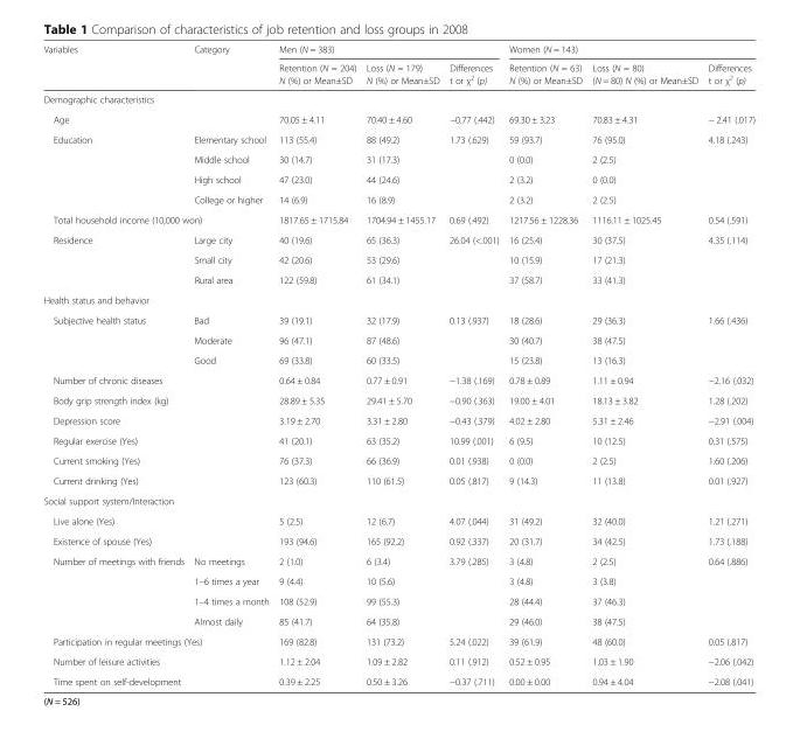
<table><thead><tr><td rowspan="2">Variables</td><td rowspan="2">Category</td><td colspan="3">Men (N = 383)</td><td colspan="3">Women (N = 143)</td></tr><tr><td>Retention (N = 204) N (%) or Mean±SD</td><td>Loss (N = 179) N (%) or Mean±SD</td><td>Differences t or χ<sup>2</sup> (p)</td><td>Retention (N = 63) N (%) or Mean±SD</td><td>Loss (N = 80) (N = 80) N (%) or Mean±SD</td><td>Differences t or χ<sup>2</sup> (p)</td></tr></thead><tbody><tr><td colspan="8">Demographic characteristics</td></tr><tr><td>Age</td><td></td><td>70.05 ± 4.11</td><td>70.40 ± 4.60</td><td>−0.77 (.442)</td><td>69.30 ± 3.23</td><td>70.83 ± 4.31</td><td>− 2.41 (.017)</td></tr><tr><td rowspan="4">Education</td><td>Elementary school</td><td>113 (55.4)</td><td>88 (49.2)</td><td>1.73 (.629)</td><td>59 (93.7)</td><td>76 (95.0)</td><td>4.18 (.243)</td></tr><tr><td>Middle school</td><td>30 (14.7)</td><td>31 (17.3)</td><td></td><td>0 (0.0)</td><td>2 (2.5)</td><td></td></tr><tr><td>High school</td><td>47 (23.0)</td><td>44 (24.6)</td><td></td><td>2 (3.2)</td><td>0 (0.0)</td><td></td></tr><tr><td>College or higher</td><td>14 (6.9)</td><td>16 (8.9)</td><td></td><td>2 (3.2)</td><td>2 (2.5)</td><td></td></tr><tr><td colspan="2">Total household income (10,000 won)</td><td>1817.65 ± 1715.84</td><td>1704.94 ± 1455.17</td><td>0.69 (.492)</td><td>1217.56 ± 1228.36</td><td>1116.11 ± 1025.45</td><td>0.54 (.591)</td></tr><tr><td rowspan="3">Residence</td><td>Large city</td><td>40 (19.6)</td><td>65 (36.3)</td><td>26.04 (&lt;.001)</td><td>16 (25.4)</td><td>30 (37.5)</td><td>4.35 (.114)</td></tr><tr><td>Small city</td><td>42 (20.6)</td><td>53 (29.6)</td><td></td><td>10 (15.9)</td><td>17 (21.3)</td><td></td></tr><tr><td>Rural area</td><td>122 (59.8)</td><td>61 (34.1)</td><td></td><td>37 (58.7)</td><td>33 (41.3)</td><td></td></tr><tr><td colspan="8">Health status and behavior</td></tr><tr><td rowspan="3">Subjective health status</td><td>Bad</td><td>39 (19.1)</td><td>32 (17.9)</td><td>0.13 (.937)</td><td>18 (28.6)</td><td>29 (36.3)</td><td>1.66 (.436)</td></tr><tr><td>Moderate</td><td>96 (47.1)</td><td>87 (48.6)</td><td></td><td>30 (40.7)</td><td>38 (47.5)</td><td></td></tr><tr><td>Good</td><td>69 (33.8)</td><td>60 (33.5)</td><td></td><td>15 (23.8)</td><td>13 (16.3)</td><td></td></tr><tr><td colspan="2">Number of chronic diseases</td><td>0.64 ± 0.84</td><td>0.77 ± 0.91</td><td>−1.38 (.169)</td><td>0.78 ± 0.89</td><td>1.11 ± 0.94</td><td>−2.16 (.032)</td></tr><tr><td colspan="2">Body grip strength index (kg)</td><td>28.89 ± 5.35</td><td>29.41 ± 5.70</td><td>−0.90 (.363)</td><td>19.00 ± 4.01</td><td>18.13 ± 3.82</td><td>1.28 (.202)</td></tr><tr><td colspan="2">Depression score</td><td>3.19 ± 2.70</td><td>3.31 ± 2.80</td><td>−0.43 (.379)</td><td>4.02 ± 2.80</td><td>5.31 ± 2.46</td><td>−2.91 (.004)</td></tr><tr><td colspan="2">Regular exercise (Yes)</td><td>41 (20.1)</td><td>63 (35.2)</td><td>10.99 (.001)</td><td>6 (9.5)</td><td>10 (12.5)</td><td>0.31 (.575)</td></tr><tr><td colspan="2">Current smoking (Yes)</td><td>76 (37.3)</td><td>66 (36.9)</td><td>0.01 (.938)</td><td>0 (0.0)</td><td>2 (2.5)</td><td>1.60 (.206)</td></tr><tr><td colspan="2">Current drinking (Yes)</td><td>123 (60.3)</td><td>110 (61.5)</td><td>0.05 (.817)</td><td>9 (14.3)</td><td>11 (13.8)</td><td>0.01 (.927)</td></tr><tr><td colspan="8">Social support system/Interaction</td></tr><tr><td colspan="2">Live alone (Yes)</td><td>5 (2.5)</td><td>12 (6.7)</td><td>4.07 (.044)</td><td>31 (49.2)</td><td>32 (40.0)</td><td>1.21 (.271)</td></tr><tr><td colspan="2">Existence of spouse (Yes)</td><td>193 (94.6)</td><td>165 (92.2)</td><td>0.92 (.337)</td><td>20 (31.7)</td><td>34 (42.5)</td><td>1.73 (.188)</td></tr><tr><td rowspan="4">Number of meetings with friends</td><td>No meetings</td><td>2 (1.0)</td><td>6 (3.4)</td><td>3.79 (.285)</td><td>3 (4.8)</td><td>2 (2.5)</td><td>0.64 (.886)</td></tr><tr><td>1–6 times a year</td><td>9 (4.4)</td><td>10 (5.6)</td><td></td><td>3 (4.8)</td><td>3 (3.8)</td><td></td></tr><tr><td>1–4 times a month</td><td>108 (52.9)</td><td>99 (55.3)</td><td></td><td>28 (44.4)</td><td>37 (46.3)</td><td></td></tr><tr><td>Almost daily</td><td>85 (41.7)</td><td>64 (35.8)</td><td></td><td>29 (46.0)</td><td>38 (47.5)</td><td></td></tr><tr><td colspan="2">Participation in regular meetings (Yes)</td><td>169 (82.8)</td><td>131 (73.2)</td><td>5.24 (.022)</td><td>39 (61.9)</td><td>48 (60.0)</td><td>0.05 (.817)</td></tr><tr><td>Number of leisure activities</td><td></td><td>1.12 ± 2.04</td><td>1.09 ± 2.82</td><td>0.11 (.912)</td><td>0.52 ± 0.95</td><td>1.03 ± 1.90</td><td>−2.06 (.042)</td></tr><tr><td>Time spent on self-development</td><td></td><td>0.39 ± 2.25</td><td>0.50 ± 3.26</td><td>−0.37 (.711)</td><td>0.00 ± 0.00</td><td>0.94 ± 4.04</td><td>−2.08 (.041)</td></tr></tbody></table>